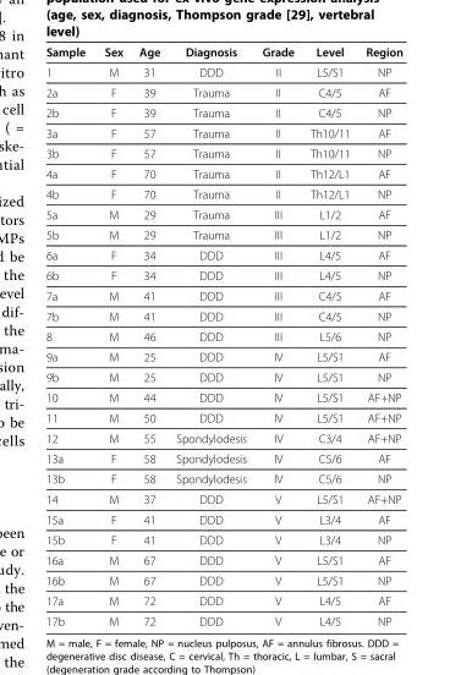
<table><thead><tr><td>Sample</td><td>Sex</td><td>Age</td><td>Diagnosis</td><td>Grade</td><td>Level</td><td>Region</td></tr></thead><tbody><tr><td>1</td><td>M</td><td>31</td><td>DDD</td><td>II</td><td>L5/S1</td><td>NP</td></tr><tr><td>2a</td><td>F</td><td>39</td><td>Trauma</td><td>II</td><td>C4/5</td><td>AF</td></tr><tr><td>2b</td><td>F</td><td>39</td><td>Trauma</td><td>II</td><td>C4/5</td><td>NP</td></tr><tr><td>3a</td><td>F</td><td>57</td><td>Trauma</td><td>II</td><td>Th10/11</td><td>AF</td></tr><tr><td>3b</td><td>F</td><td>57</td><td>Trauma</td><td>II</td><td>Th10/11</td><td>NP</td></tr><tr><td>4a</td><td>F</td><td>70</td><td>Trauma</td><td>II</td><td>Th12/L1</td><td>AF</td></tr><tr><td>4b</td><td>F</td><td>70</td><td>Trauma</td><td>II</td><td>Th12/L1</td><td>NP</td></tr><tr><td>5a</td><td>M</td><td>29</td><td>Trauma</td><td>III</td><td>L1/2</td><td>AF</td></tr><tr><td>5b</td><td>M</td><td>29</td><td>Trauma</td><td>III</td><td>L1/2</td><td>NP</td></tr><tr><td>6a</td><td>F</td><td>34</td><td>DDD</td><td>III</td><td>L4/5</td><td>AF</td></tr><tr><td>6b</td><td>F</td><td>34</td><td>DDD</td><td>III</td><td>L4/5</td><td>NP</td></tr><tr><td>7a</td><td>M</td><td>41</td><td>DDD</td><td>III</td><td>C4/5</td><td>AF</td></tr><tr><td>7b</td><td>M</td><td>41</td><td>DDD</td><td>III</td><td>C4/5</td><td>NP</td></tr><tr><td>8</td><td>M</td><td>46</td><td>DDD</td><td>III</td><td>L5/6</td><td>NP</td></tr><tr><td>9a</td><td>M</td><td>25</td><td>DDD</td><td>IV</td><td>L5/S1</td><td>AF</td></tr><tr><td>9b</td><td>M</td><td>25</td><td>DDD</td><td>IV</td><td>L5/S1</td><td>NP</td></tr><tr><td>10</td><td>M</td><td>44</td><td>DDD</td><td>IV</td><td>L5/S1</td><td>AF+NP</td></tr><tr><td>11</td><td>M</td><td>50</td><td>DDD</td><td>IV</td><td>L5/S1</td><td>AF+NP</td></tr><tr><td>12</td><td>M</td><td>55</td><td>Spondylodesis</td><td>IV</td><td>C3/4</td><td>AF+NP</td></tr><tr><td>13a</td><td>F</td><td>58</td><td>Spondylodesis</td><td>IV</td><td>C5/6</td><td>AF</td></tr><tr><td>13b</td><td>F</td><td>58</td><td>Spondylodesis</td><td>IV</td><td>C5/6</td><td>NP</td></tr><tr><td>14</td><td>M</td><td>37</td><td>DDD</td><td>V</td><td>L5/S1</td><td>AF+NP</td></tr><tr><td>15a</td><td>F</td><td>41</td><td>DDD</td><td>V</td><td>L3/4</td><td>AF</td></tr><tr><td>15b</td><td>F</td><td>41</td><td>DDD</td><td>V</td><td>L3/4</td><td>NP</td></tr><tr><td>16a</td><td>M</td><td>67</td><td>DDD</td><td>V</td><td>L5/S1</td><td>AF</td></tr><tr><td>16b</td><td>M</td><td>67</td><td>DDD</td><td>V</td><td>L5/S1</td><td>NP</td></tr><tr><td>17a</td><td>M</td><td>72</td><td>DDD</td><td>V</td><td>L4/5</td><td>AF</td></tr><tr><td>17b</td><td>M</td><td>72</td><td>DDD</td><td>V</td><td>L4/5</td><td>NP</td></tr></tbody></table>